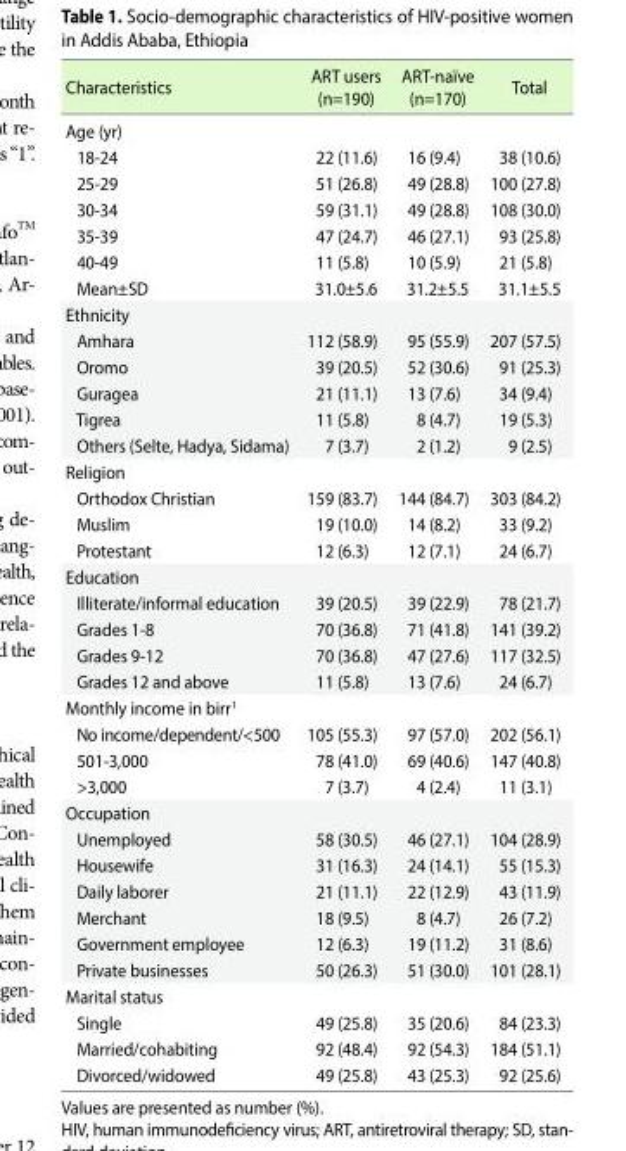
<table><thead><tr><td>Characteristics</td><td>ART users (n=190)</td><td>ART-naïve (n=170)</td><td>Total</td></tr></thead><tbody><tr><td colspan="4">Age (yr)</td></tr><tr><td>18-24</td><td>22 (11.6)</td><td>16 (9.4)</td><td>38 (10.6)</td></tr><tr><td>25-29</td><td>51 (26.8)</td><td>49 (28.8)</td><td>100 (27.8)</td></tr><tr><td>30-34</td><td>59 (31.1)</td><td>49 (28.8)</td><td>108 (30.0)</td></tr><tr><td>35-39</td><td>47 (24.7)</td><td>46 (27.1)</td><td>93 (25.8)</td></tr><tr><td>40-49</td><td>11 (5.8)</td><td>10 (5.9)</td><td>21 (5.8)</td></tr><tr><td>Mean±SD</td><td>31.0±5.6</td><td>31.2±5.5</td><td>31.1±5.5</td></tr><tr><td colspan="4">Ethnicity</td></tr><tr><td>Amhara</td><td>112 (58.9)</td><td>95 (55.9)</td><td>207 (57.5)</td></tr><tr><td>Oromo</td><td>39 (20.5)</td><td>52 (30.6)</td><td>91 (25.3)</td></tr><tr><td>Guragea</td><td>21 (11.1)</td><td>13 (7.6)</td><td>34 (9.4)</td></tr><tr><td>Tigrea</td><td>11 (5.8)</td><td>8 (4.7)</td><td>19 (5.3)</td></tr><tr><td>Others (Selte, Hadya, Sidama)</td><td>7 (3.7)</td><td>2 (1.2)</td><td>9 (2.5)</td></tr><tr><td colspan="4">Religion</td></tr><tr><td>Orthodox Christian</td><td>159 (83.7)</td><td>144 (84.7)</td><td>303 (84.2)</td></tr><tr><td>Muslim</td><td>19 (10.0)</td><td>14 (8.2)</td><td>33 (9.2)</td></tr><tr><td>Protestant</td><td>12 (6.3)</td><td>12 (7.1)</td><td>24 (6.7)</td></tr><tr><td colspan="4">Education</td></tr><tr><td>Illiterate/informal education</td><td>39 (20.5)</td><td>39 (22.9)</td><td>78 (21.7)</td></tr><tr><td>Grades 1-8</td><td>70 (36.8)</td><td>71 (41.8)</td><td>141 (39.2)</td></tr><tr><td>Grades 9-12</td><td>70 (36.8)</td><td>47 (27.6)</td><td>117 (32.5)</td></tr><tr><td>Grades 12 and above</td><td>11 (5.8)</td><td>13 (7.6)</td><td>24 (6.7)</td></tr><tr><td colspan="4">Monthly income in birr<sup>1</sup></td></tr><tr><td>No income/dependent/&lt;500</td><td>105 (55.3)</td><td>97 (57.0)</td><td>202 (56.1)</td></tr><tr><td>501-3,000</td><td>78 (41.0)</td><td>69 (40.6)</td><td>147 (40.8)</td></tr><tr><td>&gt;3,000</td><td>7 (3.7)</td><td>4 (2.4)</td><td>11 (3.1)</td></tr><tr><td colspan="4">Occupation</td></tr><tr><td>Unemployed</td><td>58 (30.5)</td><td>46 (27.1)</td><td>104 (28.9)</td></tr><tr><td>Housewife</td><td>31 (16.3)</td><td>24 (14.1)</td><td>55 (15.3)</td></tr><tr><td>Daily laborer</td><td>21 (11.1)</td><td>22 (12.9)</td><td>43 (11.9)</td></tr><tr><td>Merchant</td><td>18 (9.5)</td><td>8 (4.7)</td><td>26 (7.2)</td></tr><tr><td>Government employee</td><td>12 (6.3)</td><td>19 (11.2)</td><td>31 (8.6)</td></tr><tr><td>Private businesses</td><td>50 (26.3)</td><td>51 (30.0)</td><td>101 (28.1)</td></tr><tr><td colspan="4">Marital status</td></tr><tr><td>Single</td><td>49 (25.8)</td><td>35 (20.6)</td><td>84 (23.3)</td></tr><tr><td>Married/cohabiting</td><td>92 (48.4)</td><td>92 (54.3)</td><td>184 (51.1)</td></tr><tr><td>Divorced/widowed</td><td>49 (25.8)</td><td>43 (25.3)</td><td>92 (25.6)</td></tr></tbody></table>